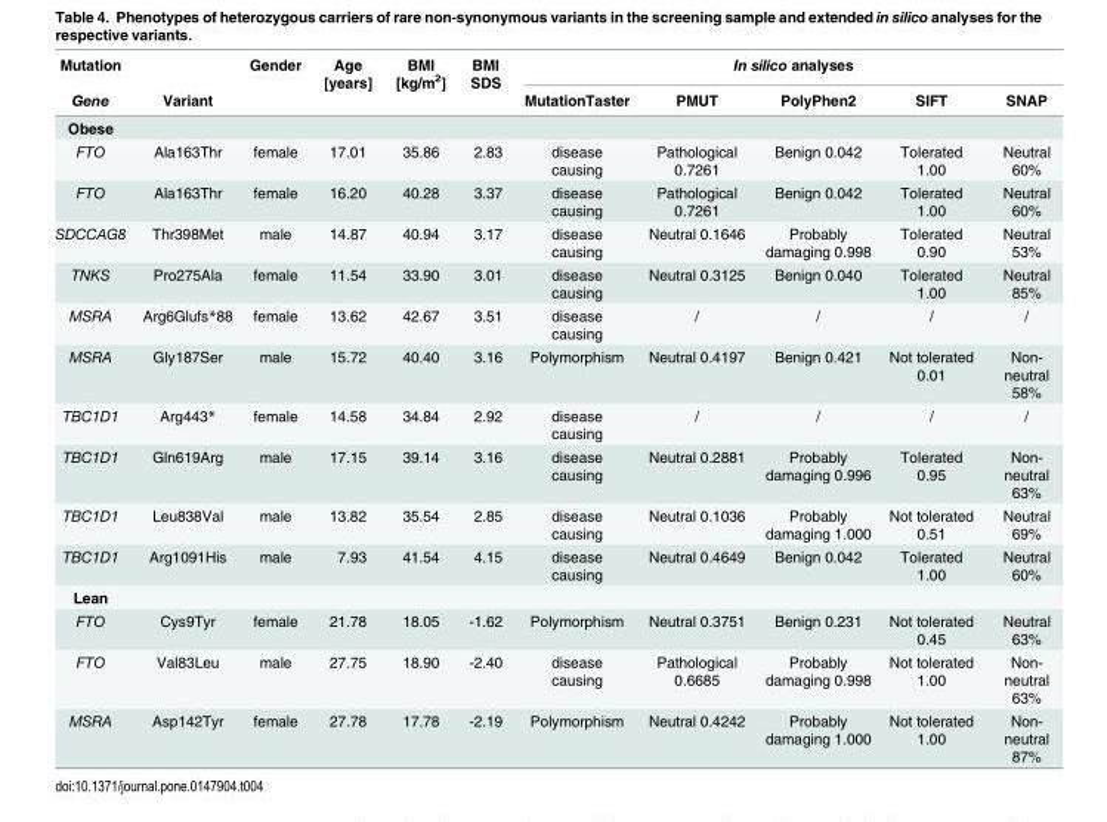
<table><thead><tr><td rowspan="2">Mutation Gene</td><td rowspan="2">Variant</td><td rowspan="2">Gender</td><td rowspan="2">Age [years]</td><td rowspan="2">BMI [kg/m<sup>2</sup>]</td><td rowspan="2">BMI SDS</td><td colspan="5">In silico analyses</td></tr><tr><td>MutationTaster</td><td>PMUT</td><td>PolyPhen2</td><td>SIFT</td><td>SNAP</td></tr></thead><tbody><tr><td colspan="11">Obese</td></tr><tr><td>FTO</td><td>Ala163Thr</td><td>female</td><td>17.01</td><td>35.86</td><td>2.83</td><td>disease causing</td><td>Pathological 0.7261</td><td>Benign 0.042</td><td>Tolerated 1.00</td><td>Neutral 60%</td></tr><tr><td>FTO</td><td>Ala163Thr</td><td>female</td><td>16.20</td><td>40.28</td><td>3.37</td><td>disease causing</td><td>Pathological 0.7261</td><td>Benign 0.042</td><td>Tolerated 1.00</td><td>Neutral 60%</td></tr><tr><td>SDCCAG8</td><td>Thr398Met</td><td>male</td><td>14.87</td><td>40.94</td><td>3.17</td><td>disease causing</td><td>Neutral 0.1646</td><td>Probably damaging 0.998</td><td>Tolerated 0.90</td><td>Neutral 53%</td></tr><tr><td>TNKS</td><td>Pro275Ala</td><td>female</td><td>11.54</td><td>33.90</td><td>3.01</td><td>disease causing</td><td>Neutral 0.3125</td><td>Benign 0.040</td><td>Tolerated 1.00</td><td>Neutral 85%</td></tr><tr><td>MSRA</td><td>Arg6Glufs*88</td><td>female</td><td>13.62</td><td>42.67</td><td>3.51</td><td>disease causing</td><td>/</td><td>/</td><td>/</td><td>/</td></tr><tr><td>MSRA</td><td>Gly187Ser</td><td>male</td><td>15.72</td><td>40.40</td><td>3.16</td><td>Polymorphism</td><td>Neutral 0.4197</td><td>Benign 0.421</td><td>Not tolerated 0.01</td><td>Non- neutral 58%</td></tr><tr><td>TBC1D1</td><td>Arg443*</td><td>female</td><td>14.58</td><td>34.84</td><td>2.92</td><td>disease causing</td><td>/</td><td>/</td><td>/</td><td>/</td></tr><tr><td>TBC1D1</td><td>Gln619Arg</td><td>male</td><td>17.15</td><td>39.14</td><td>3.16</td><td>disease causing</td><td>Neutral 0.2881</td><td>Probably damaging 0.996</td><td>Tolerated 0.95</td><td>Non- neutral 63%</td></tr><tr><td>TBC1D1</td><td>Leu838Val</td><td>male</td><td>13.82</td><td>35.54</td><td>2.85</td><td>disease causing</td><td>Neutral 0.1036</td><td>Probably damaging 1.000</td><td>Not tolerated 0.51</td><td>Neutral 69%</td></tr><tr><td>TBC1D1</td><td>Arg1091His</td><td>male</td><td>7.93</td><td>41.54</td><td>4.15</td><td>disease causing</td><td>Neutral 0.4649</td><td>Benign 0.042</td><td>Tolerated 1.00</td><td>Neutral 60%</td></tr><tr><td colspan="11">Lean</td></tr><tr><td>FTO</td><td>Cys9Tyr</td><td>female</td><td>21.78</td><td>18.05</td><td>-1.62</td><td>Polymorphism</td><td>Neutral 0.3751</td><td>Benign 0.231</td><td>Not tolerated 0.45</td><td>Neutral 63%</td></tr><tr><td>FTO</td><td>Val83Leu</td><td>male</td><td>27.75</td><td>18.90</td><td>-2.40</td><td>disease causing</td><td>Pathological 0.6685</td><td>Probably damaging 0.998</td><td>Not tolerated 1.00</td><td>Non- neutral 63%</td></tr><tr><td>MSRA</td><td>Asp142Tyr</td><td>female</td><td>27.78</td><td>17.78</td><td>-2.19</td><td>Polymorphism</td><td>Neutral 0.4242</td><td>Probably damaging 1.000</td><td>Not tolerated 1.00</td><td>Non- neutral 87%</td></tr></tbody></table>